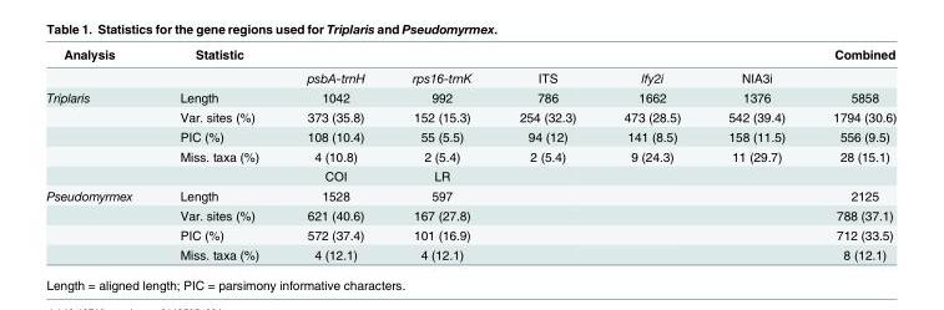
<table><thead><tr><td>Analysis</td><td>Statistic</td><td></td><td></td><td></td><td></td><td></td><td>Combined</td></tr></thead><tbody><tr><td></td><td></td><td>psbA-trnH</td><td>rps16-trnK</td><td>ITS</td><td>lfy2i</td><td>NIA3i</td><td></td></tr><tr><td rowspan="5">Triplaris</td><td>Length</td><td>1042</td><td>992</td><td>786</td><td>1662</td><td>1376</td><td>5858</td></tr><tr><td>Var. sites (%)</td><td>373 (35.8)</td><td>152 (15.3)</td><td>254 (32.3)</td><td>473 (28.5)</td><td>542 (39.4)</td><td>1794 (30.6)</td></tr><tr><td>PIC (%)</td><td>108 (10.4)</td><td>55 (5.5)</td><td>94 (12)</td><td>141 (8.5)</td><td>158 (11.5)</td><td>556 (9.5)</td></tr><tr><td>Miss. taxa (%)</td><td>4 (10.8)</td><td>2 (5.4)</td><td>2 (5.4)</td><td>9 (24.3)</td><td>11 (29.7)</td><td>28 (15.1)</td></tr><tr><td></td><td>COI</td><td>LR</td><td></td><td></td><td></td><td></td></tr><tr><td rowspan="4">Pseudomyrmex</td><td>Length</td><td>1528</td><td>597</td><td></td><td></td><td></td><td>2125</td></tr><tr><td>Var. sites (%)</td><td>621 (40.6)</td><td>167 (27.8)</td><td></td><td></td><td></td><td>788 (37.1)</td></tr><tr><td>PIC (%)</td><td>572 (37.4)</td><td>101 (16.9)</td><td></td><td></td><td></td><td>712 (33.5)</td></tr><tr><td>Miss. taxa (%)</td><td>4 (12.1)</td><td>4 (12.1)</td><td></td><td></td><td></td><td>8 (12.1)</td></tr></tbody></table>